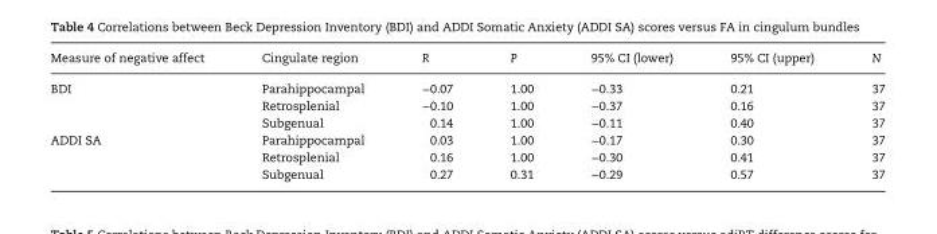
<table><thead><tr><td>Measure of negative affect</td><td>Cingulate region</td><td>R</td><td>P</td><td>95% CI (lower)</td><td>95% CI (upper)</td><td>N</td></tr></thead><tbody><tr><td rowspan="3">BDI</td><td>Parahippocampal</td><td>−0.07</td><td>1.00</td><td>−0.33</td><td>0.21</td><td>37</td></tr><tr><td>Retrosplenial</td><td>−0.10</td><td>1.00</td><td>−0.37</td><td>0.16</td><td>37</td></tr><tr><td>Subgenual</td><td>0.14</td><td>1.00</td><td>−0.11</td><td>0.40</td><td>37</td></tr><tr><td rowspan="3">ADDI SA</td><td>Parahippocampal</td><td>0.03</td><td>1.00</td><td>−0.17</td><td>0.30</td><td>37</td></tr><tr><td>Retrosplenial</td><td>0.16</td><td>1.00</td><td>−0.30</td><td>0.41</td><td>37</td></tr><tr><td>Subgenual</td><td>0.27</td><td>0.31</td><td>−0.29</td><td>0.57</td><td>37</td></tr></tbody></table>